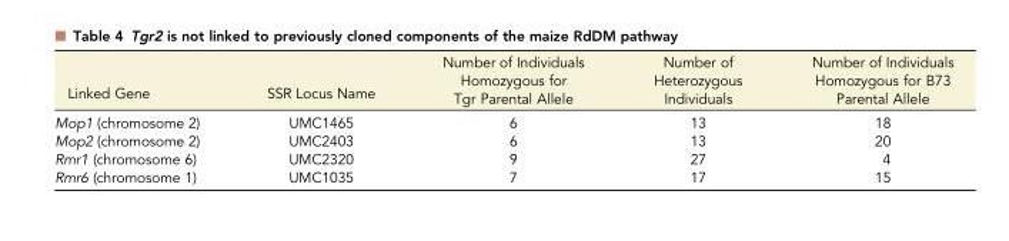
<table><thead><tr><td>Linked Gene</td><td>SSR Locus Name</td><td>Number of Individuals Homozygous for Tgr Parental Allele</td><td>Number of Heterozygous Individuals</td><td>Number of Individuals Homozygous for B73 Parental Allele</td></tr></thead><tbody><tr><td>Mop1 (chromosome 2)</td><td>UMC1465</td><td>6</td><td>13</td><td>18</td></tr><tr><td>Mop2 (chromosome 2)</td><td>UMC2403</td><td>6</td><td>13</td><td>20</td></tr><tr><td>Rmr1 (chromosome 6)</td><td>UMC2320</td><td>9</td><td>27</td><td>4</td></tr><tr><td>Rmr6 (chromosome 1)</td><td>UMC1035</td><td>7</td><td>17</td><td>15</td></tr></tbody></table>